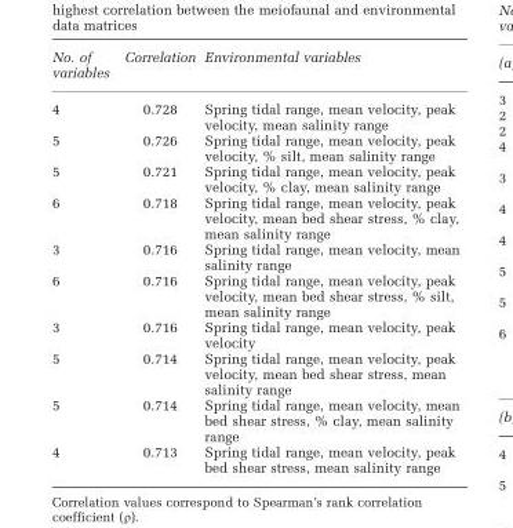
<table><thead><tr><td>No. of variables</td><td>Correlation</td><td>Environmental variables</td></tr></thead><tbody><tr><td>4</td><td>0.728</td><td>Spring tidal range, mean velocity, peak velocity, mean salinity range</td></tr><tr><td>5</td><td>0.726</td><td>Spring tidal range, mean velocity, peak velocity, % silt, mean salinity range</td></tr><tr><td>5</td><td>0.721</td><td>Spring tidal range, mean velocity, peak velocity, % clay, mean salinity range</td></tr><tr><td>6</td><td>0.718</td><td>Spring tidal range, mean velocity, peak velocity, mean bed shear stress, % clay, mean salinity range</td></tr><tr><td>3</td><td>0.716</td><td>Spring tidal range, mean velocity, mean salinity range</td></tr><tr><td>6</td><td>0.716</td><td>Spring tidal range, mean velocity, peak velocity, mean bed shear stress, % silt, mean salinity range</td></tr><tr><td>3</td><td>0.716</td><td>Spring tidal range, mean velocity, peak velocity</td></tr><tr><td>5</td><td>0.714</td><td>Spring tidal range, mean velocity, peak velocity, mean bed shear stress, mean salinity range</td></tr><tr><td>5</td><td>0.714</td><td>Spring tidal range, mean velocity, mean bed shear stress, % clay, mean salinity range</td></tr><tr><td>4</td><td>0.713</td><td>Spring tidal range, mean velocity, peak bed shear stress, mean salinity range</td></tr></tbody></table>